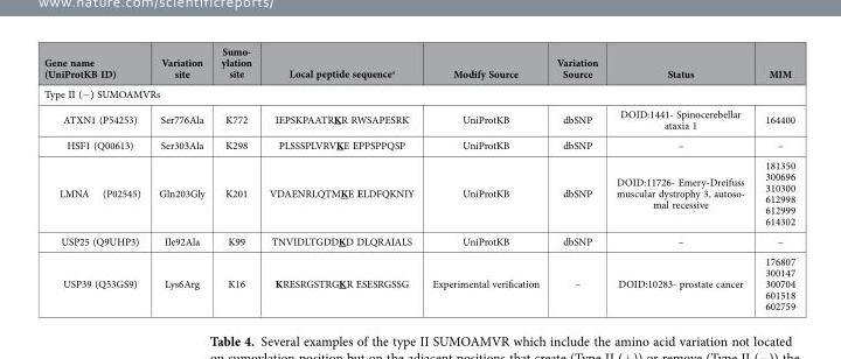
<table><thead><tr><td>Gene name (UniProtKB ID)</td><td>Variation site</td><td>Sumo- ylation site</td><td>Local peptide sequence<sup>a</sup></td><td>Modify Source</td><td>Variation Source</td><td>Status</td><td>MIM</td></tr></thead><tbody><tr><td colspan="8">Type II (− ) SUMOAMVRs</td></tr><tr><td>ATXN1 (P54253)</td><td>Ser776Ala</td><td>K772</td><td>IEPSKPAATRKR RWSAPESRK</td><td>UniProtKB</td><td>dbSNP</td><td>DOID:1441- Spinocerebellar ataxia 1</td><td>164400</td></tr><tr><td>HSF1 (Q00613)</td><td>Ser303Ala</td><td>K298</td><td>PLSSSPLVRVKE EPPSPPQSP</td><td>UniProtKB</td><td>dbSNP</td><td>–</td><td>–</td></tr><tr><td>LMNA (P02545)</td><td>Gln203Gly</td><td>K201</td><td>VDAENRLQTMKE ELDFQKNIY</td><td>UniProtKB</td><td>dbSNP</td><td>DOID:11726- Emery-Dreifuss muscular dystrophy 3, autoso- mal recessive</td><td>181350 300696 310300 612998 612999 614302</td></tr><tr><td>USP25 (Q9UHP3)</td><td>Ile92Ala</td><td>K99</td><td>TNVIDLTGDDKD DLQRAIALS</td><td>UniProtKB</td><td>dbSNP</td><td>–</td><td>–</td></tr><tr><td>USP39 (Q53GS9)</td><td>Lys6Arg</td><td>K16</td><td>KRESRGSTRGKR ESESRGSSG</td><td>Experimental verification</td><td>–</td><td>DOID:10283- prostate cancer</td><td>176807 300147 300704 601518 602759</td></tr></tbody></table>